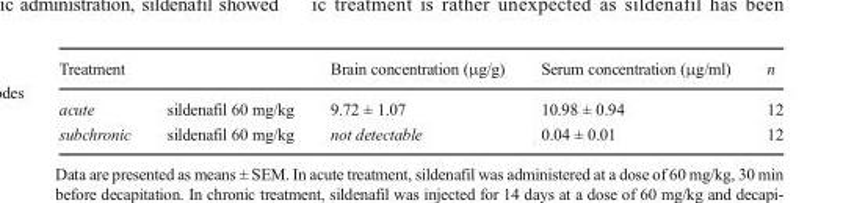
<table><thead><tr><td colspan="2">Treatment</td><td rowspan="2">Brain concentration (μg/g) 9.72 ± 1.07</td><td rowspan="2">Serum concentration (μg/ml) 10.98 ± 0.94</td><td rowspan="2">n 12</td></tr><tr><td>acute</td><td>sildenafil 60 mg/kg</td></tr></thead><tbody><tr><td>subchronic</td><td>sildenafil 60 mg/kg</td><td>not detectable</td><td>0.04 ± 0.01</td><td>12</td></tr></tbody></table>